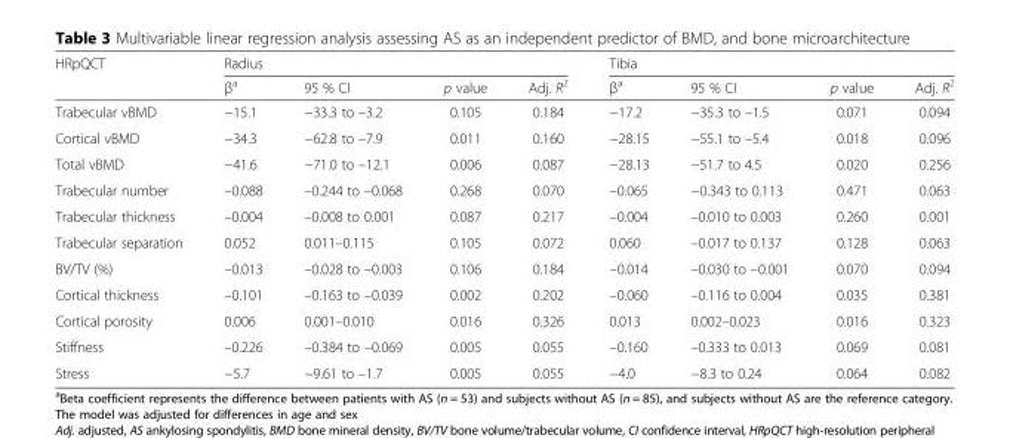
<table><thead><tr><td rowspan="2">HRpQCT</td><td colspan="4">Radius</td><td colspan="4">Tibia</td></tr><tr><td>β<sup>a</sup></td><td>95 % CI</td><td>p value</td><td>Adj. R<sup>2</sup></td><td>β<sup>a</sup></td><td>95 % CI</td><td>p value</td><td>Adj. R<sup>2</sup></td></tr></thead><tbody><tr><td>Trabecular vBMD</td><td>−15.1</td><td>−33.3 to –3.2</td><td>0.105</td><td>0.184</td><td>−17.2</td><td>−35.3 to –1.5</td><td>0.071</td><td>0.094</td></tr><tr><td>Cortical vBMD</td><td>−34.3</td><td>−62.8 to –7.9</td><td>0.011</td><td>0.160</td><td>−28.15</td><td>−55.1 to –5.4</td><td>0.018</td><td>0.096</td></tr><tr><td>Total vBMD</td><td>−41.6</td><td>−71.0 to –12.1</td><td>0.006</td><td>0.087</td><td>−28.13</td><td>−51.7 to 4.5</td><td>0.020</td><td>0.256</td></tr><tr><td>Trabecular number</td><td>–0.088</td><td>–0.244 to –0.068</td><td>0.268</td><td>0.070</td><td>–0.065</td><td>−0.343 to 0.113</td><td>0.471</td><td>0.063</td></tr><tr><td>Trabecular thickness</td><td>–0.004</td><td>–0.008 to 0.001</td><td>0.087</td><td>0.217</td><td>–0.004</td><td>–0.010 to 0.003</td><td>0.260</td><td>0.001</td></tr><tr><td>Trabecular separation</td><td>0.052</td><td>0.011–0.115</td><td>0.105</td><td>0.072</td><td>0.060</td><td>–0.017 to 0.137</td><td>0.128</td><td>0.063</td></tr><tr><td>BV/TV (%)</td><td>–0.013</td><td>–0.028 to –0.003</td><td>0.106</td><td>0.184</td><td>–0.014</td><td>–0.030 to –0.001</td><td>0.070</td><td>0.094</td></tr><tr><td>Cortical thickness</td><td>–0.101</td><td>–0.163 to –0.039</td><td>0.002</td><td>0.202</td><td>–0.060</td><td>–0.116 to 0.004</td><td>0.035</td><td>0.381</td></tr><tr><td>Cortical porosity</td><td>0.006</td><td>0.001–0.010</td><td>0.016</td><td>0.326</td><td>0.013</td><td>0.002–0.023</td><td>0.016</td><td>0.323</td></tr><tr><td>Stiffness</td><td>–0.226</td><td>–0.384 to –0.069</td><td>0.005</td><td>0.055</td><td>–0.160</td><td>–0.333 to 0.013</td><td>0.069</td><td>0.081</td></tr><tr><td>Stress</td><td>−5.7</td><td>−9.61 to –1.7</td><td>0.005</td><td>0.055</td><td>−4.0</td><td>−8.3 to 0.24</td><td>0.064</td><td>0.082</td></tr></tbody></table>